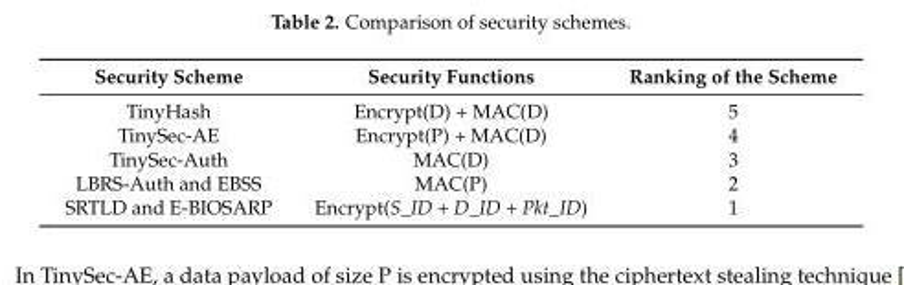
<table><thead><tr><td>Security Scheme</td><td>Security Functions</td><td>Ranking of the Scheme</td></tr></thead><tbody><tr><td>TinyHash</td><td>Encrypt(D) + MAC(D)</td><td>5</td></tr><tr><td>TinySec-AE</td><td>Encrypt(P) + MAC(D)</td><td>4</td></tr><tr><td>TinySec-Auth</td><td>MAC(D)</td><td>3</td></tr><tr><td>LBRS-Auth and EBSS</td><td>MAC(P)</td><td>2</td></tr><tr><td>SRTLD and E-BIOSARP</td><td>Encrypt(S_ID + D_ID + Pkt_ID)</td><td>1</td></tr></tbody></table>